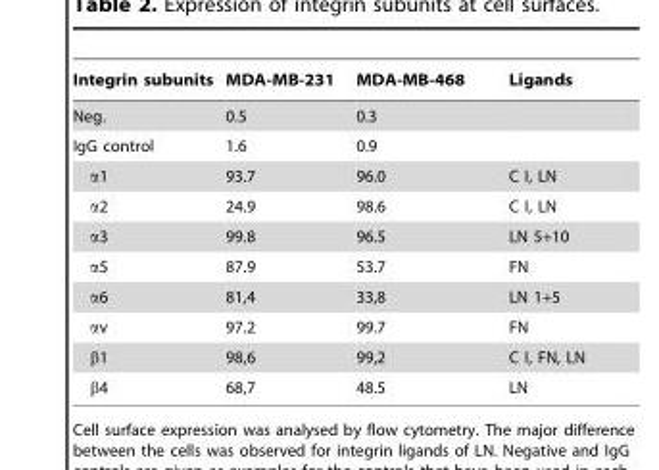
<table><thead><tr><td>Integrin subunits</td><td>MDA-MB-231</td><td>MDA-MB-468</td><td>Ligands</td></tr></thead><tbody><tr><td>Neg.</td><td>0.5</td><td>0.3</td><td></td></tr><tr><td>IgG control</td><td>1.6</td><td>0.9</td><td></td></tr><tr><td>α1</td><td>93.7</td><td>96.0</td><td>C I, LN</td></tr><tr><td>α2</td><td>24.9</td><td>98.6</td><td>C I, LN</td></tr><tr><td>α3</td><td>99.8</td><td>96.5</td><td>LN 5+10</td></tr><tr><td>α5</td><td>87.9</td><td>53.7</td><td>FN</td></tr><tr><td>α6</td><td>81,4</td><td>33,8</td><td>LN 1+5</td></tr><tr><td>αv</td><td>97.2</td><td>99.7</td><td>FN</td></tr><tr><td>β1</td><td>98,6</td><td>99,2</td><td>C I, FN, LN</td></tr><tr><td>β4</td><td>68,7</td><td>48.5</td><td>LN</td></tr></tbody></table>